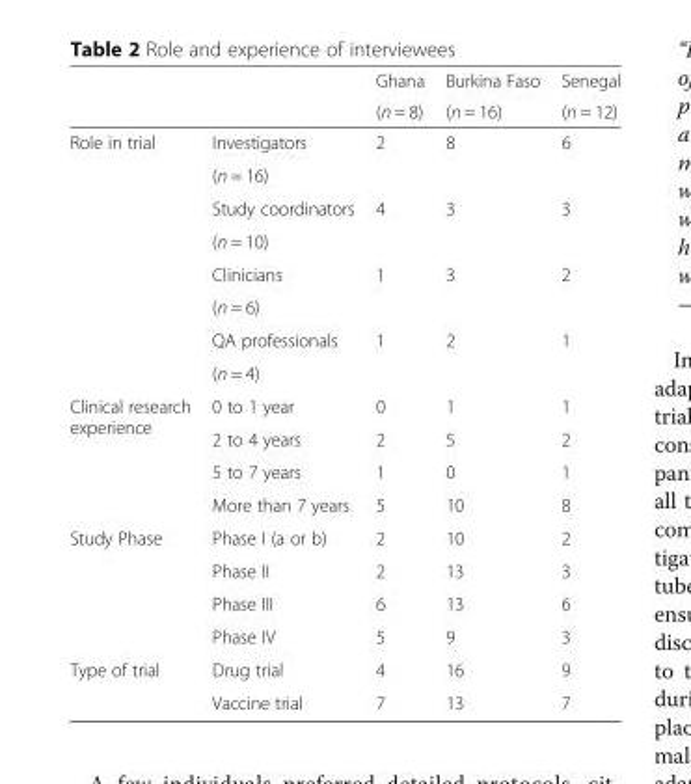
<table><thead><tr><td rowspan="2"></td><td rowspan="2"></td><td rowspan="2">Ghana (n = 8)</td><td rowspan="2">Burkina Faso (n = 16)</td><td rowspan="2">Senegal (n = 12)</td></tr><tr></tr></thead><tbody><tr><td rowspan="8">Role in trial</td><td>Investigators</td><td rowspan="2">2</td><td rowspan="2">8</td><td rowspan="2">6</td></tr><tr><td>(n = 16)</td></tr><tr><td>Study coordinators</td><td rowspan="2">4</td><td rowspan="2">3</td><td rowspan="2">3</td></tr><tr><td>(n = 10)</td></tr><tr><td>Clinicians</td><td rowspan="2">1</td><td rowspan="2">3</td><td rowspan="2">2</td></tr><tr><td>(n = 6)</td></tr><tr><td>QA professionals</td><td rowspan="2">1</td><td rowspan="2">2</td><td rowspan="2">1</td></tr><tr><td>(n = 4)</td></tr><tr><td rowspan="4">Clinical research experience</td><td>0 to 1 year</td><td>0</td><td>1</td><td>1</td></tr><tr><td>2 to 4 years</td><td>2</td><td>5</td><td>2</td></tr><tr><td>5 to 7 years</td><td>1</td><td>0</td><td>1</td></tr><tr><td>More than 7 years</td><td>5</td><td>10</td><td>8</td></tr><tr><td rowspan="4">Study Phase</td><td>Phase I (a or b)</td><td>2</td><td>10</td><td>2</td></tr><tr><td>Phase II</td><td>2</td><td>13</td><td>3</td></tr><tr><td>Phase III</td><td>6</td><td>13</td><td>6</td></tr><tr><td>Phase IV</td><td>5</td><td>9</td><td>3</td></tr><tr><td rowspan="2">Type of trial</td><td>Drug trial</td><td>4</td><td>16</td><td>9</td></tr><tr><td>Vaccine trial</td><td>7</td><td>13</td><td>7</td></tr></tbody></table>